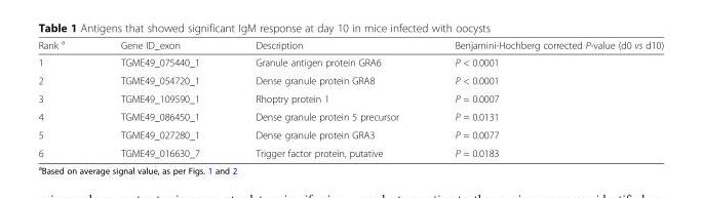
<table><thead><tr><td>Rank <sup>a</sup></td><td>Gene ID_exon</td><td>Description</td><td>Benjamini-Hochberg corrected P-value (d0 vs d10)</td></tr></thead><tbody><tr><td>1</td><td>TGME49_075440_1</td><td>Granule antigen protein GRA6</td><td>P &lt; 0.0001</td></tr><tr><td>2</td><td>TGME49_054720_1</td><td>Dense granule protein GRA8</td><td>P &lt; 0.0001</td></tr><tr><td>3</td><td>TGME49_109590_1</td><td>Rhoptry protein 1</td><td>P = 0.0007</td></tr><tr><td>4</td><td>TGME49_086450_1</td><td>Dense granule protein 5 precursor</td><td>P = 0.0131</td></tr><tr><td>5</td><td>TGME49_027280_1</td><td>Dense granule protein GRA3</td><td>P = 0.0077</td></tr><tr><td>6</td><td>TGME49_016630_7</td><td>Trigger factor protein, putative</td><td>P = 0.0183</td></tr></tbody></table>